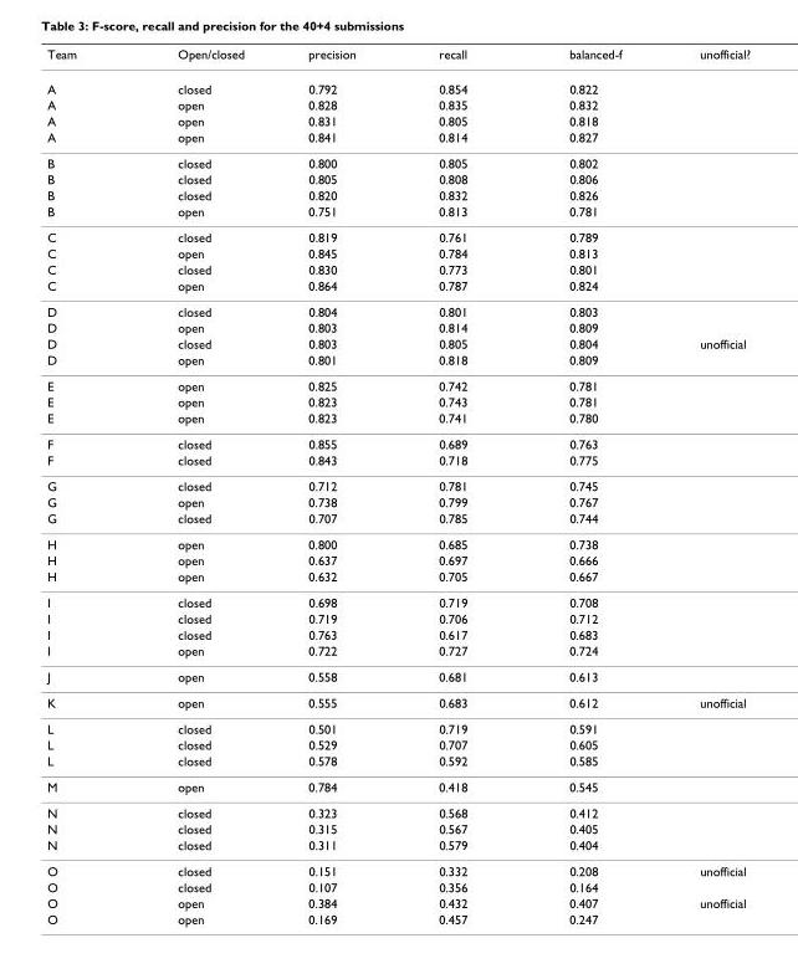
<table><thead><tr><td>Team</td><td>Open/closed</td><td>precision</td><td>recall</td><td>balanced-f</td><td>unofficial?</td></tr></thead><tbody><tr><td>A</td><td>closed</td><td>0.792</td><td>0.854</td><td>0.822</td><td></td></tr><tr><td>A</td><td>open</td><td>0.828</td><td>0.835</td><td>0.832</td><td></td></tr><tr><td>A</td><td>open</td><td>0.831</td><td>0.805</td><td>0.818</td><td></td></tr><tr><td>A</td><td>open</td><td>0.841</td><td>0.814</td><td>0.827</td><td></td></tr><tr><td>B</td><td>closed</td><td>0.800</td><td>0.805</td><td>0.802</td><td></td></tr><tr><td>B</td><td>closed</td><td>0.805</td><td>0.808</td><td>0.806</td><td></td></tr><tr><td>B</td><td>closed</td><td>0.820</td><td>0.832</td><td>0.826</td><td></td></tr><tr><td>B</td><td>open</td><td>0.751</td><td>0.813</td><td>0.781</td><td></td></tr><tr><td>C</td><td>closed</td><td>0.819</td><td>0.761</td><td>0.789</td><td></td></tr><tr><td>C</td><td>open</td><td>0.845</td><td>0.784</td><td>0.813</td><td></td></tr><tr><td>C</td><td>closed</td><td>0.830</td><td>0.773</td><td>0.801</td><td></td></tr><tr><td>C</td><td>open</td><td>0.864</td><td>0.787</td><td>0.824</td><td></td></tr><tr><td>D</td><td>closed</td><td>0.804</td><td>0.801</td><td>0.803</td><td></td></tr><tr><td>D</td><td>open</td><td>0.803</td><td>0.814</td><td>0.809</td><td></td></tr><tr><td>D</td><td>closed</td><td>0.803</td><td>0.805</td><td>0.804</td><td>unofficial</td></tr><tr><td>D</td><td>open</td><td>0.801</td><td>0.818</td><td>0.809</td><td></td></tr><tr><td>E</td><td>open</td><td>0.825</td><td>0.742</td><td>0.781</td><td></td></tr><tr><td>E</td><td>open</td><td>0.823</td><td>0.743</td><td>0.781</td><td></td></tr><tr><td>E</td><td>open</td><td>0.823</td><td>0.741</td><td>0.780</td><td></td></tr><tr><td>F</td><td>closed</td><td>0.855</td><td>0.689</td><td>0.763</td><td></td></tr><tr><td>F</td><td>closed</td><td>0.843</td><td>0.718</td><td>0.775</td><td></td></tr><tr><td>G</td><td>closed</td><td>0.712</td><td>0.781</td><td>0.745</td><td></td></tr><tr><td>G</td><td>open</td><td>0.738</td><td>0.799</td><td>0.767</td><td></td></tr><tr><td>G</td><td>closed</td><td>0.707</td><td>0.785</td><td>0.744</td><td></td></tr><tr><td>H</td><td>open</td><td>0.800</td><td>0.685</td><td>0.738</td><td></td></tr><tr><td>H</td><td>open</td><td>0.637</td><td>0.697</td><td>0.666</td><td></td></tr><tr><td>H</td><td>open</td><td>0.632</td><td>0.705</td><td>0.667</td><td></td></tr><tr><td>I</td><td>closed</td><td>0.698</td><td>0.719</td><td>0.708</td><td></td></tr><tr><td>I</td><td>closed</td><td>0.719</td><td>0.706</td><td>0.712</td><td></td></tr><tr><td>I</td><td>closed</td><td>0.763</td><td>0.617</td><td>0.683</td><td></td></tr><tr><td>I</td><td>open</td><td>0.722</td><td>0.727</td><td>0.724</td><td></td></tr><tr><td>J</td><td>open</td><td>0.558</td><td>0.681</td><td>0.613</td><td></td></tr><tr><td>K</td><td>open</td><td>0.555</td><td>0.683</td><td>0.612</td><td>unofficial</td></tr><tr><td>L</td><td>closed</td><td>0.501</td><td>0.719</td><td>0.591</td><td></td></tr><tr><td>L</td><td>closed</td><td>0.529</td><td>0.707</td><td>0.605</td><td></td></tr><tr><td>L</td><td>closed</td><td>0.578</td><td>0.592</td><td>0.585</td><td></td></tr><tr><td>M</td><td>open</td><td>0.784</td><td>0.418</td><td>0.545</td><td></td></tr><tr><td>N</td><td>closed</td><td>0.323</td><td>0.568</td><td>0.412</td><td></td></tr><tr><td>N</td><td>closed</td><td>0.315</td><td>0.567</td><td>0.405</td><td></td></tr><tr><td>N</td><td>closed</td><td>0.311</td><td>0.579</td><td>0.404</td><td></td></tr><tr><td>O</td><td>closed</td><td>0.151</td><td>0.332</td><td>0.208</td><td>unofficial</td></tr><tr><td>O</td><td>closed</td><td>0.107</td><td>0.356</td><td>0.164</td><td></td></tr><tr><td>O</td><td>open</td><td>0.384</td><td>0.432</td><td>0.407</td><td>unofficial</td></tr><tr><td>O</td><td>open</td><td>0.169</td><td>0.457</td><td>0.247</td><td></td></tr></tbody></table>